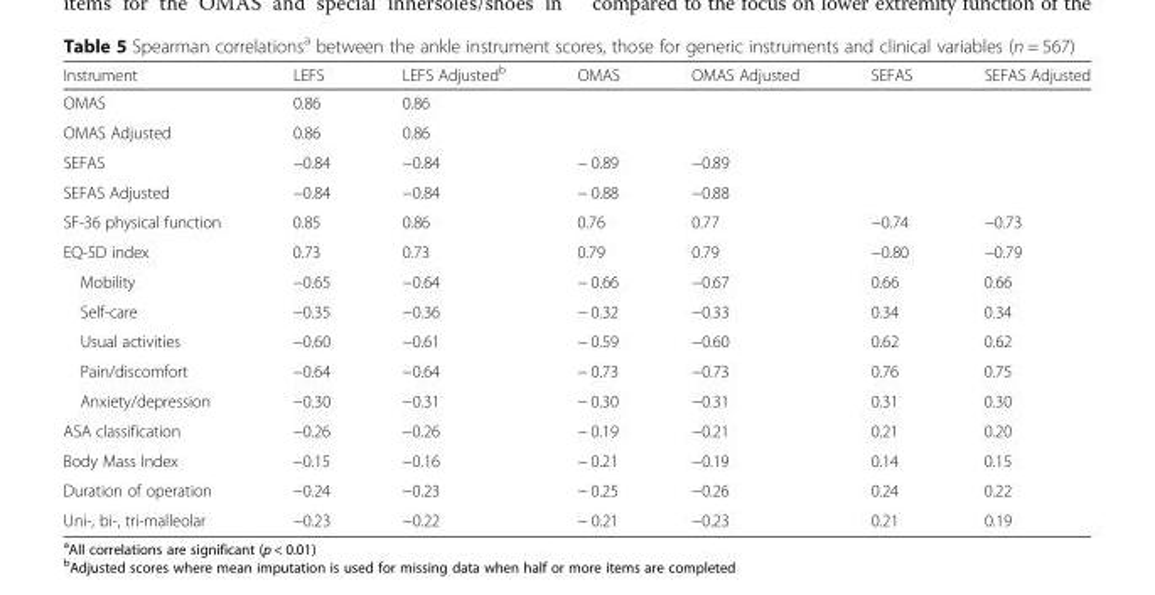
<table><thead><tr><td>Instrument</td><td>LEFS</td><td>LEFS Adjusted<sup>b</sup></td><td>OMAS</td><td>OMAS Adjusted</td><td>SEFAS</td><td>SEFAS Adjusted</td></tr></thead><tbody><tr><td>OMAS</td><td>0.86</td><td>0.86</td><td></td><td></td><td></td><td></td></tr><tr><td>OMAS Adjusted</td><td>0.86</td><td>0.86</td><td></td><td></td><td></td><td></td></tr><tr><td>SEFAS</td><td>−0.84</td><td>−0.84</td><td>− 0.89</td><td>−0.89</td><td></td><td></td></tr><tr><td>SEFAS Adjusted</td><td>−0.84</td><td>−0.84</td><td>− 0.88</td><td>−0.88</td><td></td><td></td></tr><tr><td>SF-36 physical function</td><td>0.85</td><td>0.86</td><td>0.76</td><td>0.77</td><td>−0.74</td><td>−0.73</td></tr><tr><td>EQ-5D index</td><td>0.73</td><td>0.73</td><td>0.79</td><td>0.79</td><td>−0.80</td><td>−0.79</td></tr><tr><td>Mobility</td><td>−0.65</td><td>−0.64</td><td>− 0.66</td><td>−0.67</td><td>0.66</td><td>0.66</td></tr><tr><td>Self-care</td><td>−0.35</td><td>−0.36</td><td>− 0.32</td><td>−0.33</td><td>0.34</td><td>0.34</td></tr><tr><td>Usual activities</td><td>−0.60</td><td>−0.61</td><td>− 0.59</td><td>−0.60</td><td>0.62</td><td>0.62</td></tr><tr><td>Pain/discomfort</td><td>−0.64</td><td>−0.64</td><td>− 0.73</td><td>−0.73</td><td>0.76</td><td>0.75</td></tr><tr><td>Anxiety/depression</td><td>−0.30</td><td>−0.31</td><td>− 0.30</td><td>−0.31</td><td>0.31</td><td>0.30</td></tr><tr><td>ASA classification</td><td>−0.26</td><td>−0.26</td><td>− 0.19</td><td>−0.21</td><td>0.21</td><td>0.20</td></tr><tr><td>Body Mass Index</td><td>−0.15</td><td>−0.16</td><td>− 0.21</td><td>−0.19</td><td>0.14</td><td>0.15</td></tr><tr><td>Duration of operation</td><td>−0.24</td><td>−0.23</td><td>− 0.25</td><td>−0.26</td><td>0.24</td><td>0.22</td></tr><tr><td>Uni-, bi-, tri-malleolar</td><td>−0.23</td><td>−0.22</td><td>− 0.21</td><td>−0.23</td><td>0.21</td><td>0.19</td></tr></tbody></table>